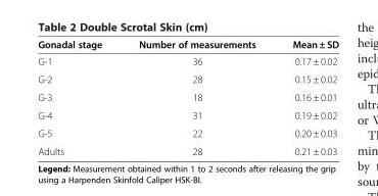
<table><thead><tr><td>Gonadal stage</td><td>Number of measurements</td><td>Mean ± SD</td></tr></thead><tbody><tr><td>G-1</td><td>36</td><td>0.17 ± 0.02</td></tr><tr><td>G-2</td><td>28</td><td>0.15 ± 0.02</td></tr><tr><td>G-3</td><td>18</td><td>0.16 ± 0.01</td></tr><tr><td>G-4</td><td>31</td><td>0.19 ± 0.02</td></tr><tr><td>G-5</td><td>22</td><td>0.20 ± 0.03</td></tr><tr><td>Adults</td><td>28</td><td>0.21 ± 0.03</td></tr></tbody></table>